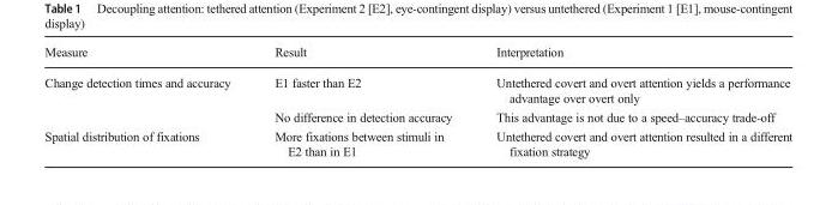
<table><thead><tr><td>Measure</td><td>Result</td><td>Interpretation</td></tr></thead><tbody><tr><td rowspan="2">Change detection times and accuracy</td><td>E1 faster than E2</td><td>Untethered covert and overt attention yields a performance advantage over overt only</td></tr><tr><td>No difference in detection accuracy</td><td>This advantage is not due to a speed–accuracy trade-off</td></tr><tr><td>Spatial distribution of fixations</td><td>More fixations between stimuli in E2 than in E1</td><td>Untethered covert and overt attention resulted in a different fixation strategy</td></tr></tbody></table>